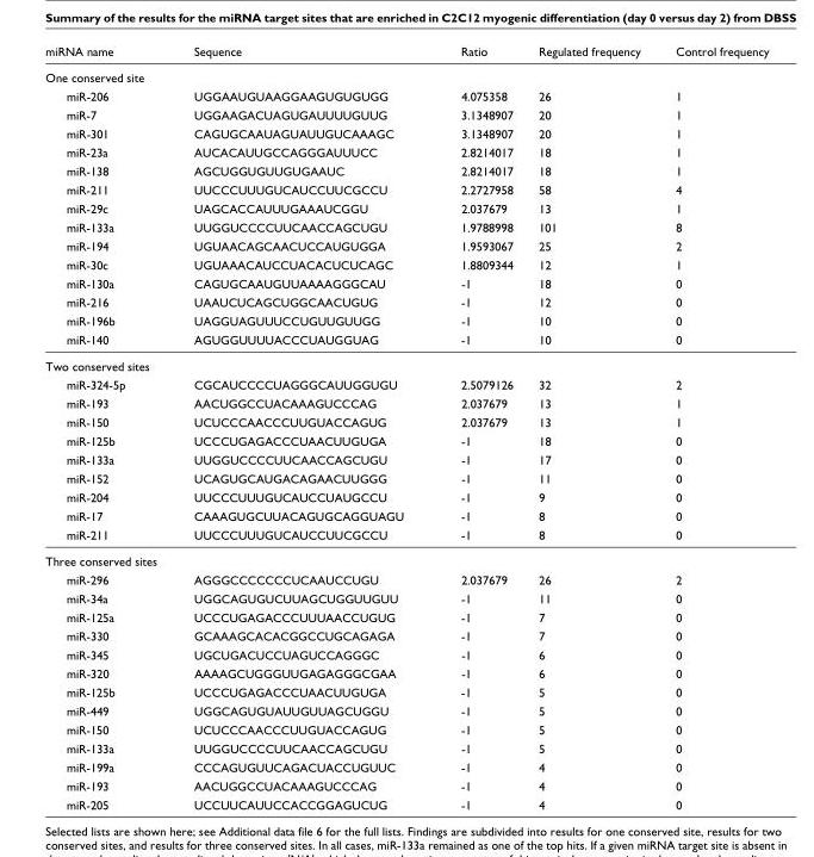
<table><thead><tr><td>miRNA name</td><td>Sequence</td><td>Ratio</td><td>Regulated frequency</td><td>Control frequency</td></tr></thead><tbody><tr><td colspan="5">One conserved site</td></tr><tr><td>miR-206</td><td>UGGAAUGUAAGGAAGUGUGUGG</td><td>4.075358</td><td>26</td><td>1</td></tr><tr><td>miR-7</td><td>UGGAAGACUAGUGAUUUUGUUG</td><td>3.1348907</td><td>20</td><td>1</td></tr><tr><td>miR-301</td><td>CAGUGCAAUAGUAUUGUCAAAGC</td><td>3.1348907</td><td>20</td><td>1</td></tr><tr><td>miR-23a</td><td>AUCACAUUGCCAGGGAUUUCC</td><td>2.8214017</td><td>18</td><td>1</td></tr><tr><td>miR-138</td><td>AGCUGGUGUUGUGAAUC</td><td>2.8214017</td><td>18</td><td>1</td></tr><tr><td>miR-211</td><td>UUCCCUUUGUCAUCCUUCGCCU</td><td>2.2727958</td><td>58</td><td>4</td></tr><tr><td>miR-29c</td><td>UAGCACCAUUUGAAAUCGGU</td><td>2.037679</td><td>13</td><td>1</td></tr><tr><td>miR-133a</td><td>UUGGUCCCCUUCAACCAGCUGU</td><td>1.9788998</td><td>101</td><td>8</td></tr><tr><td>miR-194</td><td>UGUAACAGCAACUCCAUGUGGA</td><td>1.9593067</td><td>25</td><td>2</td></tr><tr><td>miR-30c</td><td>UGUAAACAUCCUACACUCUCAGC</td><td>1.8809344</td><td>12</td><td>1</td></tr><tr><td>miR-130a</td><td>CAGUGCAAUGUUAAAAGGGCAU</td><td>-1</td><td>18</td><td>0</td></tr><tr><td>miR-216</td><td>UAAUCUCAGCUGGCAACUGUG</td><td>-1</td><td>12</td><td>0</td></tr><tr><td>miR-196b</td><td>UAGGUAGUUUCCUGUUGUUGG</td><td>-1</td><td>10</td><td>0</td></tr><tr><td>miR-140</td><td>AGUGGUUUUACCCUAUGGUAG</td><td>-1</td><td>10</td><td>0</td></tr><tr><td colspan="5">Two conserved sites</td></tr><tr><td>miR-324-5p</td><td>CGCAUCCCCUAGGGCAUUGGUGU</td><td>2.5079126</td><td>32</td><td>2</td></tr><tr><td>miR-193</td><td>AACUGGCCUACAAAGUCCCAG</td><td>2.037679</td><td>13</td><td>1</td></tr><tr><td>miR-150</td><td>UCUCCCAACCCUUGUACCAGUG</td><td>2.037679</td><td>13</td><td>1</td></tr><tr><td>miR-125b</td><td>UCCCUGAGACCCUAACUUGUGA</td><td>-1</td><td>18</td><td>0</td></tr><tr><td>miR-133a</td><td>UUGGUCCCCUUCAACCAGCUGU</td><td>-1</td><td>17</td><td>0</td></tr><tr><td>miR-152</td><td>UCAGUGCAUGACAGAACUUGGG</td><td>-1</td><td>11</td><td>0</td></tr><tr><td>miR-204</td><td>UUCCCUUUGUCAUCCUAUGCCU</td><td>-1</td><td>9</td><td>0</td></tr><tr><td>miR-17</td><td>CAAAGUGCUUACAGUGCAGGUAGU</td><td>-1</td><td>8</td><td>0</td></tr><tr><td>miR-211</td><td>UUCCCUUUGUCAUCCUUCGCCU</td><td>-1</td><td>8</td><td>0</td></tr><tr><td colspan="5">Three conserved sites</td></tr><tr><td>miR-296</td><td>AGGGCCCCCCCUCAAUCCUGU</td><td>2.037679</td><td>26</td><td>2</td></tr><tr><td>miR-34a</td><td>UGGCAGUGUCUUAGCUGGUUGUU</td><td>-1</td><td>11</td><td>0</td></tr><tr><td>miR-125a</td><td>UCCCUGAGACCCUUUAACCUGUG</td><td>-1</td><td>7</td><td>0</td></tr><tr><td>miR-330</td><td>GCAAAGCACACGGCCUGCAGAGA</td><td>-1</td><td>7</td><td>0</td></tr><tr><td>miR-345</td><td>UGCUGACUCCUAGUCCAGGGC</td><td>-1</td><td>6</td><td>0</td></tr><tr><td>miR-320</td><td>AAAAGCUGGGUUGAGAGGGCGAA</td><td>-1</td><td>6</td><td>0</td></tr><tr><td>miR-125b</td><td>UCCCUGAGACCCUAACUUGUGA</td><td>-1</td><td>5</td><td>0</td></tr><tr><td>miR-449</td><td>UGGCAGUGUAUUGUUAGCUGGU</td><td>-1</td><td>5</td><td>0</td></tr><tr><td>miR-150</td><td>UCUCCCAACCCUUGUACCAGUG</td><td>-1</td><td>5</td><td>0</td></tr><tr><td>miR-133a</td><td>UUGGUCCCCUUCAACCAGCUGU</td><td>-1</td><td>5</td><td>0</td></tr><tr><td>miR-199a</td><td>CCCAGUGUUCAGACUACCUGUUC</td><td>-1</td><td>4</td><td>0</td></tr><tr><td>miR-193</td><td>AACUGGCCUACAAAGUCCCAG</td><td>-1</td><td>4</td><td>0</td></tr><tr><td>miR-205</td><td>UCCUUCAUUCCACCGGAGUCUG</td><td>-1</td><td>4</td><td>0</td></tr></tbody></table>